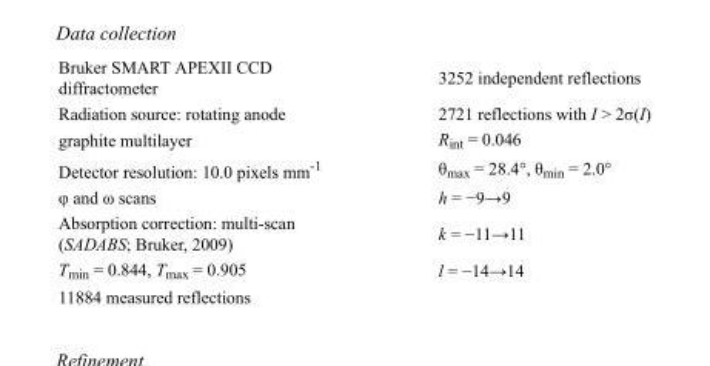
<table><tbody><tr><td>Bruker SMART APEXII CCD diffractometer</td><td>3252 independent reflections</td></tr><tr><td>Radiation source: rotating anode</td><td>2721 reflections with I &gt; 2σ(I)</td></tr><tr><td>graphite multilayer</td><td>R<sub>int</sub> = 0.046</td></tr><tr><td>Detector resolution: 10.0 pixels mm<sup>-1</sup></td><td>θ<sub>max</sub> = 28.4°, θ<sub>min</sub> = 2.0°</td></tr><tr><td>φ and ω scans</td><td>h = −9→9</td></tr><tr><td>Absorption correction: multi-scan (SADABS; Bruker, 2009)</td><td>k = −11→11</td></tr><tr><td>T<sub>min</sub> = 0.844, T<sub>max</sub> = 0.905</td><td>l = −14→14</td></tr><tr><td>11884 measured reflections</td><td></td></tr></tbody></table>